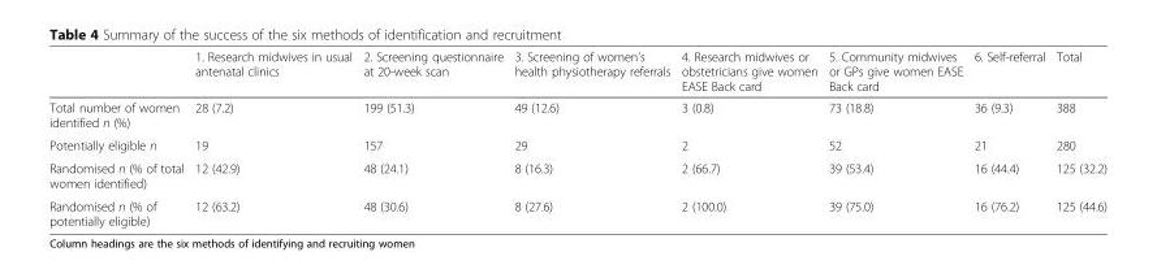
<table><thead><tr><td></td><td>1. Research midwives in usual antenatal clinics</td><td>2. Screening questionnaire at 20-week scan</td><td>3. Screening of women’s health physiotherapy referrals</td><td>4. Research midwives or obstetricians give women EASE Back card</td><td>5. Community midwives or GPs give women EASE Back card</td><td>6. Self-referral</td><td>Total</td></tr></thead><tbody><tr><td>Total number of women identified n (%)</td><td>28 (7.2)</td><td>199 (51.3)</td><td>49 (12.6)</td><td>3 (0.8)</td><td>73 (18.8)</td><td>36 (9.3)</td><td>388</td></tr><tr><td>Potentially eligible n</td><td>19</td><td>157</td><td>29</td><td>2</td><td>52</td><td>21</td><td>280</td></tr><tr><td>Randomised n (% of total women identified)</td><td>12 (42.9)</td><td>48 (24.1)</td><td>8 (16.3)</td><td>2 (66.7)</td><td>39 (53.4)</td><td>16 (44.4)</td><td>125 (32.2)</td></tr><tr><td>Randomised n (% of potentially eligible)</td><td>12 (63.2)</td><td>48 (30.6)</td><td>8 (27.6)</td><td>2 (100.0)</td><td>39 (75.0)</td><td>16 (76.2)</td><td>125 (44.6)</td></tr></tbody></table>